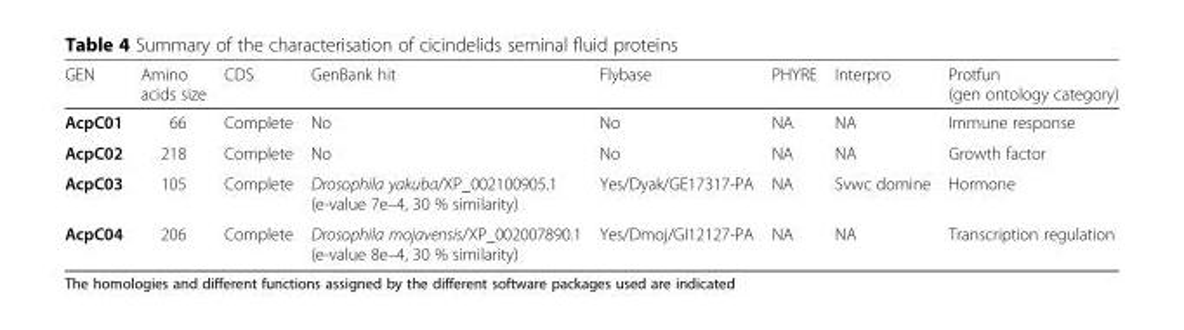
<table><thead><tr><td>GEN</td><td>Amino acids size</td><td>CDS</td><td>GenBank hit</td><td>Flybase</td><td>PHYRE</td><td>Interpro</td><td>Protfun (gen ontology category)</td></tr></thead><tbody><tr><td>AcpC01</td><td>66</td><td>Complete</td><td>No</td><td>No</td><td>NA</td><td>NA</td><td>Immune response</td></tr><tr><td>AcpC02</td><td>218</td><td>Complete</td><td>No</td><td>No</td><td>NA</td><td>NA</td><td>Growth factor</td></tr><tr><td>AcpC03</td><td>105</td><td>Complete</td><td>Drosophila yakuba/XP_002100905.1 (e-value 7e–4, 30 % similarity)</td><td>Yes/Dyak/GE17317-PA</td><td>NA</td><td>Svwc domine</td><td>Hormone</td></tr><tr><td>AcpC04</td><td>206</td><td>Complete</td><td>Drosophila mojavensis/XP_002007890.1 (e-value 8e–4, 30 % similarity)</td><td>Yes/Dmoj/GI12127-PA</td><td>NA</td><td>NA</td><td>Transcription regulation</td></tr></tbody></table>